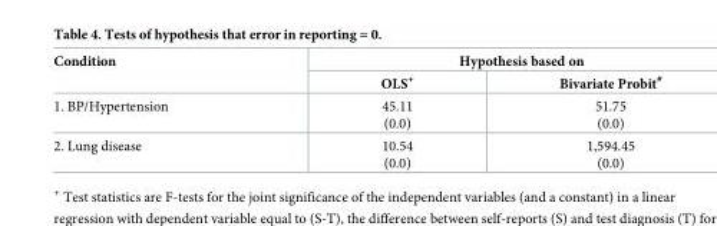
<table><thead><tr><td rowspan="2">Condition</td><td colspan="2">Hypothesis based on</td></tr><tr><td>OLS<sup>+</sup></td><td>Bivariate Probit<sup>#</sup></td></tr></thead><tbody><tr><td>1. BP/Hypertension</td><td>45.11 (0.0)</td><td>51.75 (0.0)</td></tr><tr><td>2. Lung disease</td><td>10.54 (0.0)</td><td>1,594.45 (0.0)</td></tr></tbody></table>